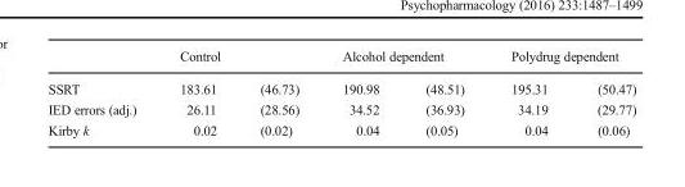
<table><thead><tr><td rowspan="2">SSRT</td><td colspan="2">Control</td><td colspan="2">Alcohol dependent</td><td colspan="2">Polydrug dependent</td></tr><tr><td>183.61</td><td>(46.73)</td><td>190.98</td><td>(48.51)</td><td>195.31</td><td>(50.47)</td></tr></thead><tbody><tr><td>IED errors (adj.)</td><td>26.11</td><td>(28.56)</td><td>34.52</td><td>(36.93)</td><td>34.19</td><td>(29.77)</td></tr><tr><td>Kirby k</td><td>0.02</td><td>(0.02)</td><td>0.04</td><td>(0.05)</td><td>0.04</td><td>(0.06)</td></tr></tbody></table>